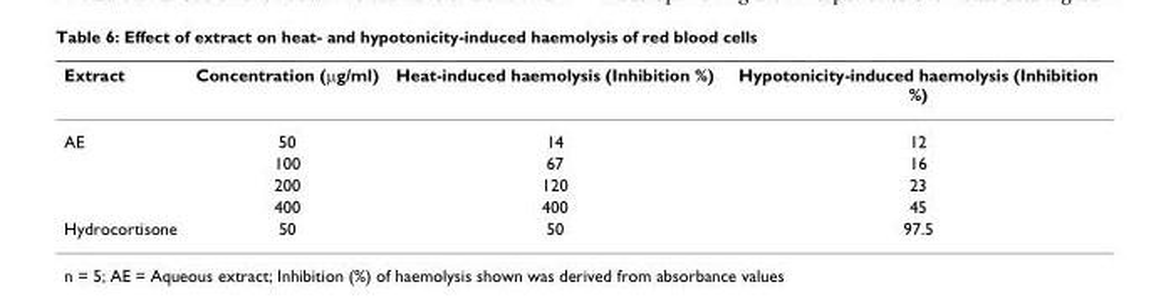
<table><thead><tr><td>Extract</td><td>Concentration (μg/ml)</td><td>Heat-induced haemolysis (Inhibition %)</td><td>Hypotonicity-induced haemolysis (Inhibition %)</td></tr></thead><tbody><tr><td rowspan="4">AE</td><td>50</td><td>14</td><td>12</td></tr><tr><td>100</td><td>67</td><td>16</td></tr><tr><td>200</td><td>120</td><td>23</td></tr><tr><td>400</td><td>400</td><td>45</td></tr><tr><td>Hydrocortisone</td><td>50</td><td>50</td><td>97.5</td></tr></tbody></table>